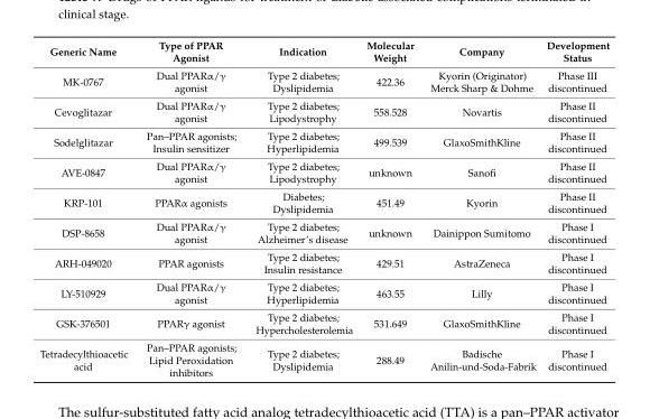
<table><thead><tr><td>Generic Name</td><td>Type of PPAR Agonist</td><td>Indication</td><td>Molecular Weight</td><td>Company</td><td>Development Status</td></tr></thead><tbody><tr><td>MK-0767</td><td>Dual PPARα/γ agonist</td><td>Type 2 diabetes; Dyslipidemia</td><td>422.36</td><td>Kyorin (Originator) Merck Sharp &amp; Dohme</td><td>Phase III discontinued</td></tr><tr><td>Cevoglitazar</td><td>Dual PPARα/γ agonist</td><td>Type 2 diabetes; Lipodystrophy</td><td>558.528</td><td>Novartis</td><td>Phase II discontinued</td></tr><tr><td>Sodelglitazar</td><td>Pan–PPAR agonists; Insulin sensitizer</td><td>Type 2 diabetes; Hyperlipidemia</td><td>499.539</td><td>GlaxoSmithKline</td><td>Phase II discontinued</td></tr><tr><td>AVE-0847</td><td>Dual PPARα/γ agonist</td><td>Type 2 diabetes; Lipodystrophy</td><td>unknown</td><td>Sanofi</td><td>Phase II discontinued</td></tr><tr><td>KRP-101</td><td>PPARα agonists</td><td>Diabetes; Dyslipidemia</td><td>451.49</td><td>Kyorin</td><td>Phase II discontinued</td></tr><tr><td>DSP-8658</td><td>Dual PPARα/γ agonist</td><td>Type 2 diabetes; Alzheimer’s disease</td><td>unknown</td><td>Dainippon Sumitomo</td><td>Phase I discontinued</td></tr><tr><td>ARH-049020</td><td>PPAR agonists</td><td>Type 2 diabetes; Insulin resistance</td><td>429.51</td><td>AstraZeneca</td><td>Phase I discontinued</td></tr><tr><td>LY-510929</td><td>Dual PPARα/γ agonist</td><td>Type 2 diabetes; Hyperlipidemia</td><td>463.55</td><td>Lilly</td><td>Phase I discontinued</td></tr><tr><td>GSK-376501</td><td>PPARγ agonist</td><td>Type 2 diabetes; Hypercholesterolemia</td><td>531.649</td><td>GlaxoSmithKline</td><td>Phase I discontinued</td></tr><tr><td>Tetradecylthioacetic acid</td><td>Pan–PPAR agonists; Lipid Peroxidation inhibitors</td><td>Type 2 diabetes; Dyslipidemia</td><td>288.49</td><td>Badische Anilin-und-Soda-Fabrik</td><td>Phase I discontinued</td></tr></tbody></table>